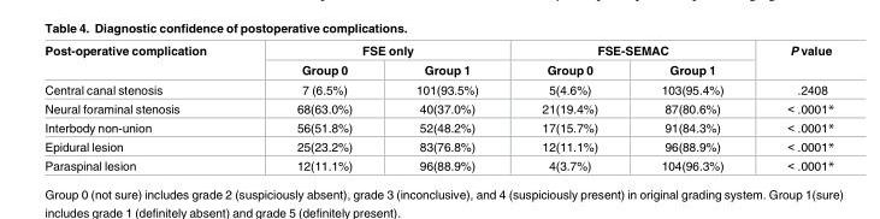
<table><thead><tr><td rowspan="2">Post-operative complication</td><td colspan="2">FSE only</td><td colspan="2">FSE-SEMAC</td><td rowspan="2">P value</td></tr><tr><td>Group 0</td><td>Group 1</td><td>Group 0</td><td>Group 1</td></tr></thead><tbody><tr><td>Central canal stenosis</td><td>7 (6.5%)</td><td>101(93.5%)</td><td>5(4.6%)</td><td>103(95.4%)</td><td>.2408</td></tr><tr><td>Neural foraminal stenosis</td><td>68(63.0%)</td><td>40(37.0%)</td><td>21(19.4%)</td><td>87(80.6%)</td><td>&lt; .0001*</td></tr><tr><td>Interbody non-union</td><td>56(51.8%)</td><td>52(48.2%)</td><td>17(15.7%)</td><td>91(84.3%)</td><td>&lt; .0001*</td></tr><tr><td>Epidural lesion</td><td>25(23.2%)</td><td>83(76.8%)</td><td>12(11.1%)</td><td>96(88.9%)</td><td>&lt; .0001*</td></tr><tr><td>Paraspinal lesion</td><td>12(11.1%)</td><td>96(88.9%)</td><td>4(3.7%)</td><td>104(96.3%)</td><td>&lt; .0001*</td></tr></tbody></table>